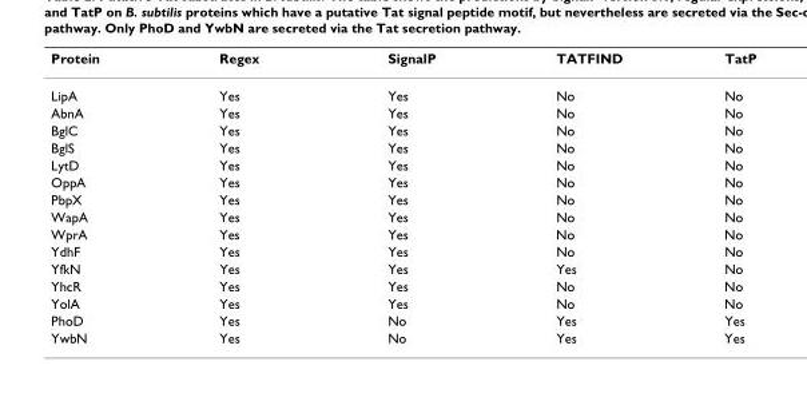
<table><thead><tr><td>Protein</td><td>Regex</td><td>SignalP</td><td>TATFIND</td><td>TatP</td></tr></thead><tbody><tr><td>LipA</td><td>Yes</td><td>Yes</td><td>No</td><td>No</td></tr><tr><td>AbnA</td><td>Yes</td><td>Yes</td><td>No</td><td>No</td></tr><tr><td>BglC</td><td>Yes</td><td>Yes</td><td>No</td><td>No</td></tr><tr><td>BglS</td><td>Yes</td><td>Yes</td><td>No</td><td>No</td></tr><tr><td>LytD</td><td>Yes</td><td>Yes</td><td>No</td><td>No</td></tr><tr><td>OppA</td><td>Yes</td><td>Yes</td><td>No</td><td>No</td></tr><tr><td>PbpX</td><td>Yes</td><td>Yes</td><td>No</td><td>No</td></tr><tr><td>WapA</td><td>Yes</td><td>Yes</td><td>No</td><td>No</td></tr><tr><td>WprA</td><td>Yes</td><td>Yes</td><td>No</td><td>No</td></tr><tr><td>YdhF</td><td>Yes</td><td>Yes</td><td>No</td><td>No</td></tr><tr><td>YfkN</td><td>Yes</td><td>Yes</td><td>Yes</td><td>No</td></tr><tr><td>YhcR</td><td>Yes</td><td>Yes</td><td>No</td><td>No</td></tr><tr><td>YolA</td><td>Yes</td><td>Yes</td><td>No</td><td>No</td></tr><tr><td>PhoD</td><td>Yes</td><td>No</td><td>Yes</td><td>Yes</td></tr><tr><td>YwbN</td><td>Yes</td><td>No</td><td>Yes</td><td>Yes</td></tr></tbody></table>